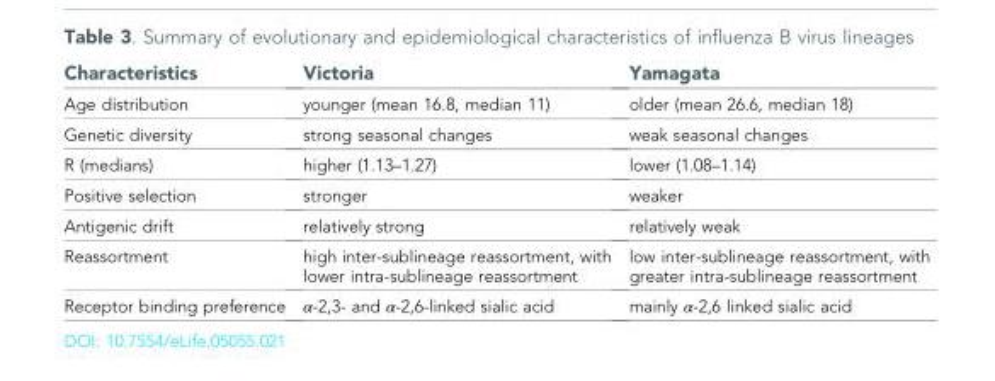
<table><thead><tr><td>Characteristics</td><td>Victoria</td><td>Yamagata</td></tr></thead><tbody><tr><td>Age distribution</td><td>younger (mean 16.8, median 11)</td><td>older (mean 26.6, median 18)</td></tr><tr><td>Genetic diversity</td><td>strong seasonal changes</td><td>weak seasonal changes</td></tr><tr><td>R (medians)</td><td>higher (1.13–1.27)</td><td>lower (1.08–1.14)</td></tr><tr><td>Positive selection</td><td>stronger</td><td>weaker</td></tr><tr><td>Antigenic drift</td><td>relatively strong</td><td>relatively weak</td></tr><tr><td>Reassortment</td><td>high inter-sublineage reassortment, with lower intra-sublineage reassortment</td><td>low inter-sublineage reassortment, with greater intra-sublineage reassortment</td></tr><tr><td>Receptor binding preference</td><td>α-2,3- and α-2,6-linked sialic acid</td><td>mainly α-2,6 linked sialic acid</td></tr></tbody></table>